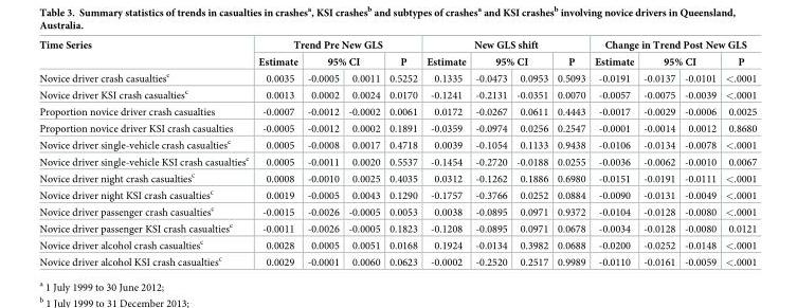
<table><thead><tr><td rowspan="3">Time Series Novice driver crash casualties<sup>c</sup></td><td colspan="4">Trend Pre New GLS</td><td colspan="4">New GLS shift</td><td colspan="4">Change in Trend Post New GLS</td></tr><tr><td rowspan="2">Estimate 0.0035</td><td colspan="2">95% CI</td><td rowspan="2">P 0.5252</td><td rowspan="2">Estimate 0.1335</td><td colspan="2">95% CI</td><td rowspan="2">P 0.5093</td><td rowspan="2">Estimate -0.0191</td><td colspan="2">95% CI</td><td rowspan="2">P &lt;.0001</td></tr><tr><td>-0.0005</td><td>0.0011</td><td>-0.0473</td><td>0.0953</td><td>-0.0137</td><td>-0.0101</td></tr></thead><tbody><tr><td>Novice driver KSI crash casualties<sup>c</sup></td><td>0.0013</td><td>0.0002</td><td>0.0024</td><td>0.0170</td><td>-0.1241</td><td>-0.2131</td><td>-0.0351</td><td>0.0070</td><td>-0.0057</td><td>-0.0075</td><td>-0.0039</td><td>&lt;.0001</td></tr><tr><td>Proportion novice driver crash casualties</td><td>-0.0007</td><td>-0.0012</td><td>-0.0002</td><td>0.0061</td><td>0.0172</td><td>-0.0267</td><td>0.0611</td><td>0.4443</td><td>-0.0017</td><td>-0.0029</td><td>-0.0006</td><td>0.0025</td></tr><tr><td>Proportion novice driver KSI crash casualties</td><td>-0.0005</td><td>-0.0012</td><td>0.0002</td><td>0.1891</td><td>-0.0359</td><td>-0.0974</td><td>0.0256</td><td>0.2547</td><td>-0.0001</td><td>-0.0014</td><td>0.0012</td><td>0.8680</td></tr><tr><td>Novice driver single-vehicle crash casualties<sup>c</sup></td><td>0.0005</td><td>-0.0008</td><td>0.0017</td><td>0.4718</td><td>0.0039</td><td>-0.1054</td><td>0.1133</td><td>0.9438</td><td>-0.0106</td><td>-0.0134</td><td>-0.0078</td><td>&lt;.0001</td></tr><tr><td>Novice driver single-vehicle KSI crash casualties<sup>c</sup></td><td>0.0005</td><td>-0.0011</td><td>0.0020</td><td>0.5537</td><td>-0.1454</td><td>-0.2720</td><td>-0.0188</td><td>0.0255</td><td>-0.0036</td><td>-0.0062</td><td>-0.0010</td><td>0.0067</td></tr><tr><td>Novice driver night crash casualties<sup>c</sup></td><td>0.0008</td><td>-0.0010</td><td>0.0025</td><td>0.4035</td><td>0.0312</td><td>-0.1262</td><td>0.1886</td><td>0.6980</td><td>-0.0151</td><td>-0.0191</td><td>-0.0111</td><td>&lt;.0001</td></tr><tr><td>Novice driver night KSI crash casualties<sup>c</sup></td><td>0.0019</td><td>-0.0005</td><td>0.0043</td><td>0.1290</td><td>-0.1757</td><td>-0.3766</td><td>0.0252</td><td>0.0884</td><td>-0.0090</td><td>-0.0131</td><td>-0.0049</td><td>&lt;.0001</td></tr><tr><td>Novice driver passenger crash casualties<sup>c</sup></td><td>-0.0015</td><td>-0.0026</td><td>-0.0005</td><td>0.0053</td><td>0.0038</td><td>-0.0895</td><td>0.0971</td><td>0.9372</td><td>-0.0104</td><td>-0.0128</td><td>-0.0080</td><td>&lt;.0001</td></tr><tr><td>Novice driver passenger KSI crash casualties<sup>c</sup></td><td>-0.0011</td><td>-0.0026</td><td>-0.0005</td><td>0.1823</td><td>-0.1208</td><td>-0.0895</td><td>0.0971</td><td>0.0678</td><td>-0.0034</td><td>-0.0128</td><td>-0.0080</td><td>0.0121</td></tr><tr><td>Novice driver alcohol crash casualties<sup>c</sup></td><td>0.0028</td><td>0.0005</td><td>0.0051</td><td>0.0168</td><td>0.1924</td><td>-0.0134</td><td>0.3982</td><td>0.0688</td><td>-0.0200</td><td>-0.0252</td><td>-0.0148</td><td>&lt;.0001</td></tr><tr><td>Novice driver alcohol KSI crash casualties<sup>c</sup></td><td>0.0029</td><td>-0.0001</td><td>0.0060</td><td>0.0623</td><td>-0.0002</td><td>-0.2520</td><td>0.2517</td><td>0.9989</td><td>-0.0110</td><td>-0.0161</td><td>-0.0059</td><td>&lt;.0001</td></tr></tbody></table>